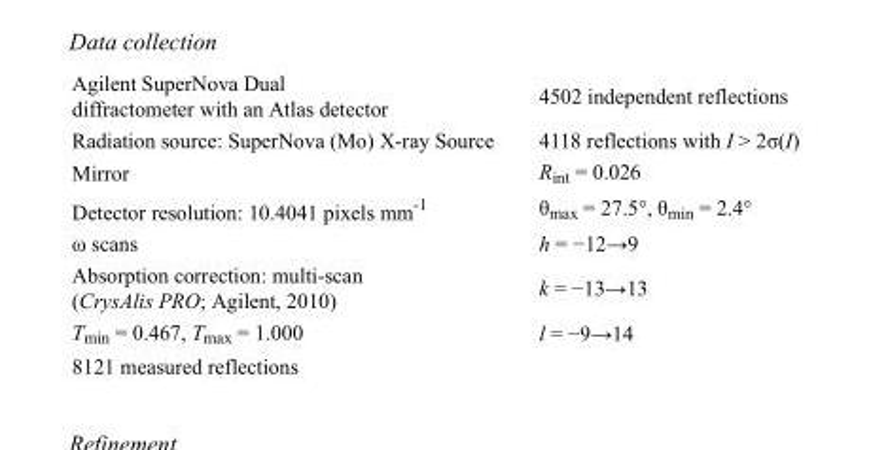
<table><tbody><tr><td>Agilent SuperNova Dual diffractometer with an Atlas detector</td><td>4502 independent reflections</td></tr><tr><td>Radiation source: SuperNova (Mo) X-ray Source</td><td>4118 reflections with I &gt; 2σ(I)</td></tr><tr><td>Mirror</td><td>R<sub>int</sub> = 0.026</td></tr><tr><td>Detector resolution: 10.4041 pixels mm<sup>-1</sup></td><td>θ<sub>max</sub> = 27.5°, θ<sub>min</sub> = 2.4°</td></tr><tr><td>ω scans</td><td>h = −12→9</td></tr><tr><td>Absorption correction: multi-scan (CrysAlis PRO; Agilent, 2010)</td><td>k = −13→13</td></tr><tr><td>T<sub>min</sub> = 0.467, T<sub>max</sub> = 1.000</td><td>l = −9→14</td></tr><tr><td>8121 measured reflections</td><td></td></tr></tbody></table>